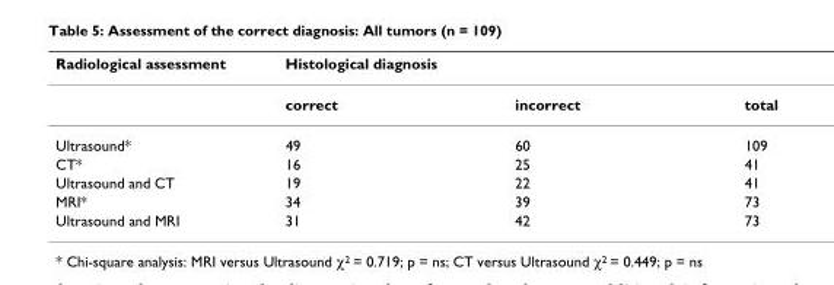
<table><thead><tr><td rowspan="2">Radiological assessment</td><td colspan="3">Histological diagnosis</td></tr><tr><td>correct</td><td>incorrect</td><td>total</td></tr></thead><tbody><tr><td>Ultrasound*</td><td>49</td><td>60</td><td>109</td></tr><tr><td>CT*</td><td>16</td><td>25</td><td>41</td></tr><tr><td>Ultrasound and CT</td><td>19</td><td>22</td><td>41</td></tr><tr><td>MRI*</td><td>34</td><td>39</td><td>73</td></tr><tr><td>Ultrasound and MRI</td><td>31</td><td>42</td><td>73</td></tr></tbody></table>